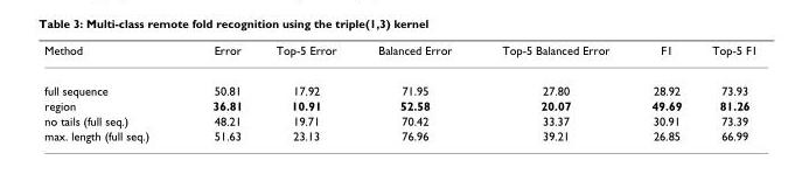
<table><thead><tr><td>Method</td><td>Error</td><td>Top-5 Error</td><td>Balanced Error</td><td>Top-5 Balanced Error</td><td>F1</td><td>Top-5 F1</td></tr></thead><tbody><tr><td>full sequence</td><td>50.81</td><td>17.92</td><td>71.95</td><td>27.80</td><td>28.92</td><td>73.93</td></tr><tr><td>region</td><td>36.81</td><td>10.91</td><td>52.58</td><td>20.07</td><td>49.69</td><td>81.26</td></tr><tr><td>no tails (full seq.)</td><td>48.21</td><td>19.71</td><td>70.42</td><td>33.37</td><td>30.91</td><td>73.39</td></tr><tr><td>max. length (full seq.)</td><td>51.63</td><td>23.13</td><td>76.96</td><td>39.21</td><td>26.85</td><td>66.99</td></tr></tbody></table>